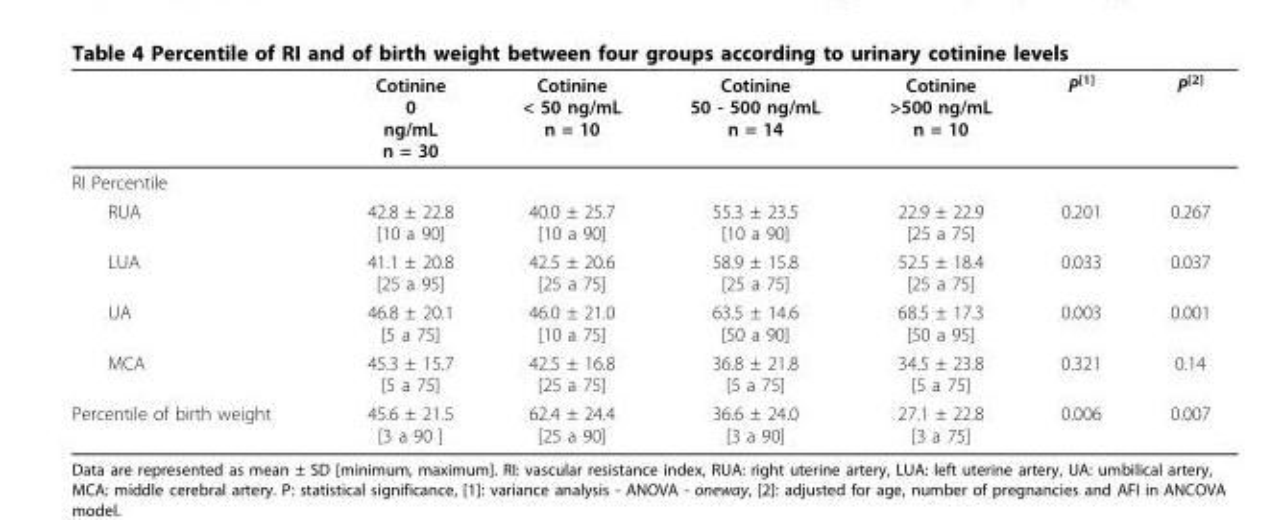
<table><thead><tr><td></td><td>Cotinine 0 ng/mL n = 30</td><td>Cotinine &lt; 50 ng/mL n = 10</td><td>Cotinine 50 - 500 ng/mL n = 14</td><td>Cotinine &gt;500 ng/mL n = 10</td><td>P<sup>[1]</sup></td><td>P<sup>[2]</sup></td></tr></thead><tbody><tr><td colspan="7">RI Percentile</td></tr><tr><td>RUA</td><td>42.8 ± 22.8 [10 a 90]</td><td>40.0 ± 25.7 [10 a 90]</td><td>55.3 ± 23.5 [10 a 90]</td><td>22.9 ± 22.9 [25 a 75]</td><td>0.201</td><td>0.267</td></tr><tr><td>LUA</td><td>41.1 ± 20.8 [25 a 95]</td><td>42.5 ± 20.6 [25 a 75]</td><td>58.9 ± 15.8 [25 a 75]</td><td>52.5 ± 18.4 [25 a 75]</td><td>0.033</td><td>0.037</td></tr><tr><td>UA</td><td>46.8 ± 20.1 [5 a 75]</td><td>46.0 ± 21.0 [10 a 75]</td><td>63.5 ± 14.6 [50 a 90]</td><td>68.5 ± 17.3 [50 a 95]</td><td>0.003</td><td>0.001</td></tr><tr><td>MCA</td><td>45.3 ± 15.7 [5 a 75]</td><td>42.5 ± 16.8 [25 a 75]</td><td>36.8 ± 21.8 [5 a 75]</td><td>34.5 ± 23.8 [5 a 75]</td><td>0.321</td><td>0.14</td></tr><tr><td>Percentile of birth weight</td><td>45.6 ± 21.5 [3 a 90 ]</td><td>62.4 ± 24.4 [25 a 90]</td><td>36.6 ± 24.0 [3 a 90]</td><td>27.1 ± 22.8 [3 a 75]</td><td>0.006</td><td>0.007</td></tr></tbody></table>